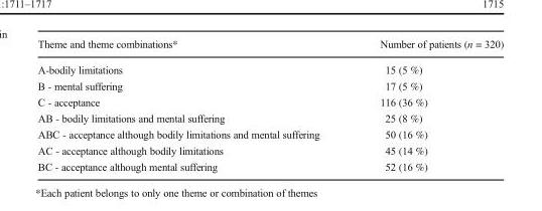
<table><thead><tr><td>Theme and theme combinations*</td><td>Number of patients (n = 320)</td></tr></thead><tbody><tr><td>A-bodily limitations</td><td>15 (5 %)</td></tr><tr><td>B - mental suffering</td><td>17 (5 %)</td></tr><tr><td>C - acceptance</td><td>116 (36 %)</td></tr><tr><td>AB - bodily limitations and mental suffering</td><td>25 (8 %)</td></tr><tr><td>ABC - acceptance although bodily limitations and mental suffering</td><td>50 (16 %)</td></tr><tr><td>AC - acceptance although bodily limitations</td><td>45 (14 %)</td></tr><tr><td>BC - acceptance although mental suffering</td><td>52 (16 %)</td></tr></tbody></table>